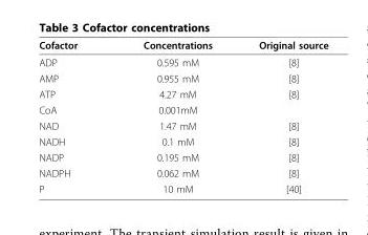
<table><thead><tr><td>Cofactor</td><td>Concentrations</td><td>Original source</td></tr></thead><tbody><tr><td>ADP</td><td>0.595 mM</td><td>[8]</td></tr><tr><td>AMP</td><td>0.955 mM</td><td>[8]</td></tr><tr><td>ATP</td><td>4.27 mM</td><td>[8]</td></tr><tr><td>CoA</td><td>0.001mM</td><td></td></tr><tr><td>NAD</td><td>1.47 mM</td><td>[8]</td></tr><tr><td>NADH</td><td>0.1 mM</td><td>[8]</td></tr><tr><td>NADP</td><td>0.195 mM</td><td>[8]</td></tr><tr><td>NADPH</td><td>0.062 mM</td><td>[8]</td></tr><tr><td>P</td><td>10 mM</td><td>[40]</td></tr></tbody></table>